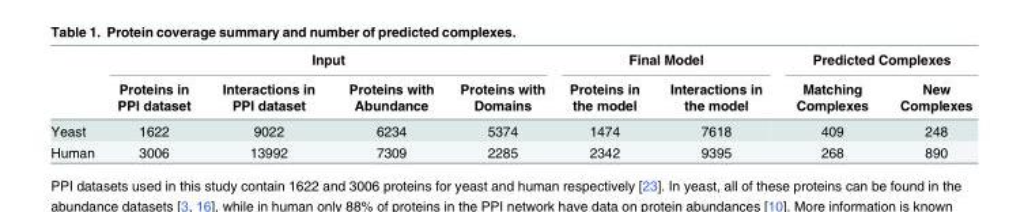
<table><thead><tr><td rowspan="2"></td><td colspan="4">Input</td><td colspan="2">Final Model</td><td colspan="2">Predicted Complexes</td></tr><tr><td>Proteins in PPI dataset</td><td>Interactions in PPI dataset</td><td>Proteins with Abundance</td><td>Proteins with Domains</td><td>Proteins in the model</td><td>Interactions in the model</td><td>Matching Complexes</td><td>New Complexes</td></tr></thead><tbody><tr><td>Yeast</td><td>1622</td><td>9022</td><td>6234</td><td>5374</td><td>1474</td><td>7618</td><td>409</td><td>248</td></tr><tr><td>Human</td><td>3006</td><td>13992</td><td>7309</td><td>2285</td><td>2342</td><td>9395</td><td>268</td><td>890</td></tr></tbody></table>